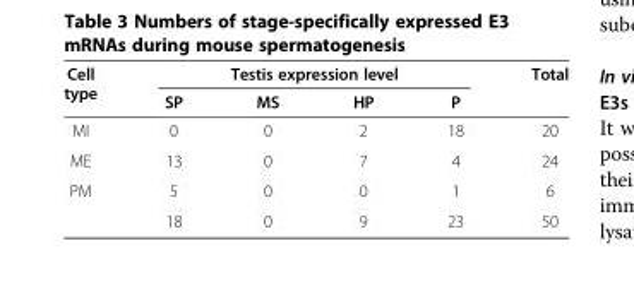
<table><thead><tr><td rowspan="2">Cell type</td><td colspan="4">Testis expression level</td><td rowspan="2">Total</td></tr><tr><td>SP</td><td>MS</td><td>HP</td><td>P</td></tr></thead><tbody><tr><td>MI</td><td>0</td><td>0</td><td>2</td><td>18</td><td>20</td></tr><tr><td>ME</td><td>13</td><td>0</td><td>7</td><td>4</td><td>24</td></tr><tr><td rowspan="2">PM</td><td>5</td><td>0</td><td>0</td><td>1</td><td>6</td></tr><tr><td>18</td><td>0</td><td>9</td><td>23</td><td>50</td></tr></tbody></table>